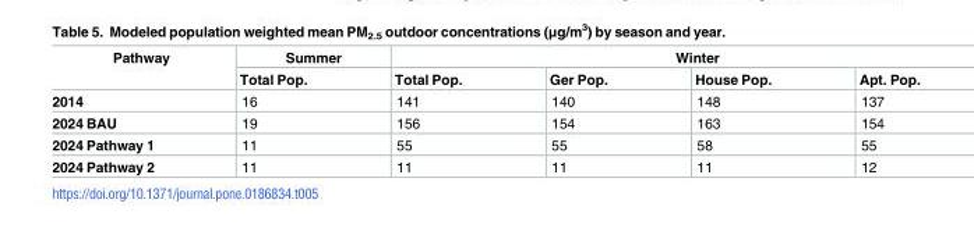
<table><thead><tr><td rowspan="2">Pathway</td><td rowspan="2">Summer Total Pop.</td><td colspan="4">Winter</td></tr><tr><td>Total Pop.</td><td>Ger Pop.</td><td>House Pop.</td><td>Apt. Pop.</td></tr></thead><tbody><tr><td>2014</td><td>16</td><td>141</td><td>140</td><td>148</td><td>137</td></tr><tr><td>2024 BAU</td><td>19</td><td>156</td><td>154</td><td>163</td><td>154</td></tr><tr><td>2024 Pathway 1</td><td>11</td><td>55</td><td>55</td><td>58</td><td>55</td></tr><tr><td>2024 Pathway 2</td><td>11</td><td>11</td><td>11</td><td>11</td><td>12</td></tr></tbody></table>